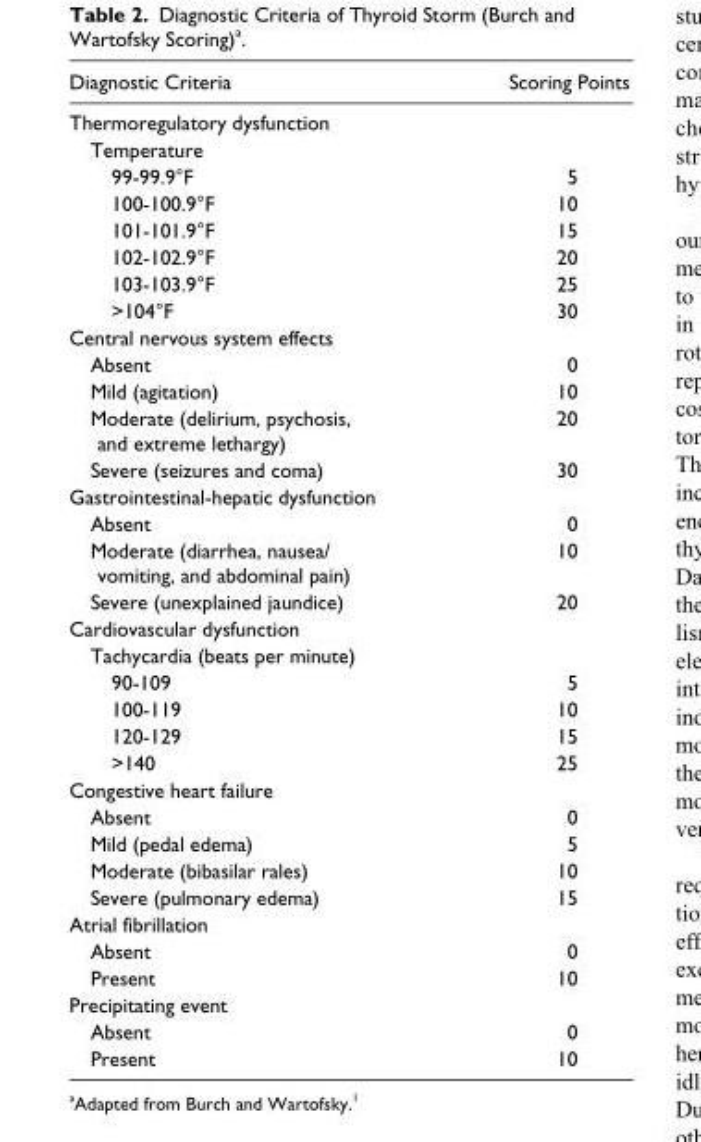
<table><thead><tr><td>Diagnostic Criteria</td><td>Scoring Points</td></tr></thead><tbody><tr><td colspan="2">Thermoregulatory dysfunction</td></tr><tr><td colspan="2">Temperature</td></tr><tr><td>99-99.9°F</td><td>5</td></tr><tr><td>100-100.9°F</td><td>10</td></tr><tr><td>101-101.9°F</td><td>15</td></tr><tr><td>102-102.9°F</td><td>20</td></tr><tr><td>103-103.9°F</td><td>25</td></tr><tr><td>&gt;104°F</td><td>30</td></tr><tr><td colspan="2">Central nervous system effects</td></tr><tr><td>Absent</td><td>0</td></tr><tr><td>Mild (agitation)</td><td>10</td></tr><tr><td>Moderate (delirium, psychosis, and extreme lethargy)</td><td>20</td></tr><tr><td>Severe (seizures and coma)</td><td>30</td></tr><tr><td colspan="2">Gastrointestinal-hepatic dysfunction</td></tr><tr><td>Absent</td><td>0</td></tr><tr><td>Moderate (diarrhea, nausea/ vomiting, and abdominal pain)</td><td>10</td></tr><tr><td>Severe (unexplained jaundice)</td><td>20</td></tr><tr><td colspan="2">Cardiovascular dysfunction</td></tr><tr><td colspan="2">Tachycardia (beats per minute)</td></tr><tr><td>90-109</td><td>5</td></tr><tr><td>100-119</td><td>10</td></tr><tr><td>120-129</td><td>15</td></tr><tr><td>&gt;140</td><td>25</td></tr><tr><td colspan="2">Congestive heart failure</td></tr><tr><td>Absent</td><td>0</td></tr><tr><td>Mild (pedal edema)</td><td>5</td></tr><tr><td>Moderate (bibasilar rales)</td><td>10</td></tr><tr><td>Severe (pulmonary edema)</td><td>15</td></tr><tr><td colspan="2">Atrial fibrillation</td></tr><tr><td>Absent</td><td>0</td></tr><tr><td>Present</td><td>10</td></tr><tr><td colspan="2">Precipitating event</td></tr><tr><td>Absent</td><td>0</td></tr><tr><td>Present</td><td>10</td></tr></tbody></table>